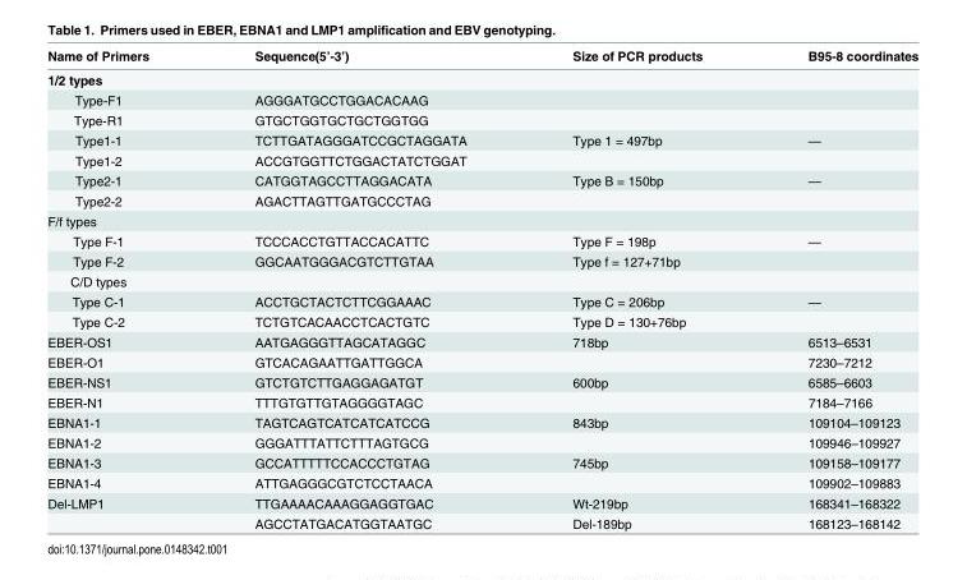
<table><thead><tr><td>Name of Primers</td><td>Sequence(5’-3’)</td><td>Size of PCR products</td><td>B95-8 coordinates</td></tr></thead><tbody><tr><td colspan="4">1/2 types</td></tr><tr><td>Type-F1</td><td>AGGGATGCCTGGACACAAG</td><td></td><td></td></tr><tr><td>Type-R1</td><td>GTGCTGGTGCTGCTGGTGG</td><td></td><td></td></tr><tr><td>Type1-1</td><td>TCTTGATAGGGATCCGCTAGGATA</td><td>Type 1 = 497bp</td><td>—</td></tr><tr><td>Type1-2</td><td>ACCGTGGTTCTGGACTATCTGGAT</td><td></td><td></td></tr><tr><td>Type2-1</td><td>CATGGTAGCCTTAGGACATA</td><td>Type B = 150bp</td><td>—</td></tr><tr><td>Type2-2</td><td>AGACTTAGTTGATGCCCTAG</td><td></td><td></td></tr><tr><td colspan="4">F/f types</td></tr><tr><td>Type F-1</td><td>TCCCACCTGTTACCACATTC</td><td>Type F = 198p</td><td>—</td></tr><tr><td>Type F-2</td><td>GGCAATGGGACGTCTTGTAA</td><td>Type f = 127+71bp</td><td></td></tr><tr><td colspan="4">C/D types</td></tr><tr><td>Type C-1</td><td>ACCTGCTACTCTTCGGAAAC</td><td>Type C = 206bp</td><td>—</td></tr><tr><td>Type C-2</td><td>TCTGTCACAACCTCACTGTC</td><td>Type D = 130+76bp</td><td></td></tr><tr><td>EBER-OS1</td><td>AATGAGGGTTAGCATAGGC</td><td>718bp</td><td>6513–6531</td></tr><tr><td>EBER-O1</td><td>GTCACAGAATTGATTGGCA</td><td></td><td>7230–7212</td></tr><tr><td>EBER-NS1</td><td>GTCTGTCTTGAGGAGATGT</td><td>600bp</td><td>6585–6603</td></tr><tr><td>EBER-N1</td><td>TTTGTGTTGTAGGGGTAGC</td><td></td><td>7184–7166</td></tr><tr><td>EBNA1-1</td><td>TAGTCAGTCATCATCATCCG</td><td>843bp</td><td>109104–109123</td></tr><tr><td>EBNA1-2</td><td>GGGATTTATTCTTTAGTGCG</td><td></td><td>109946–109927</td></tr><tr><td>EBNA1-3</td><td>GCCATTTTTCCACCCTGTAG</td><td>745bp</td><td>109158–109177</td></tr><tr><td>EBNA1-4</td><td>ATTGAGGGCGTCTCCTAACA</td><td></td><td>109902–109883</td></tr><tr><td rowspan="2">Del-LMP1</td><td>TTGAAAACAAAGGAGGTGAC</td><td>Wt-219bp</td><td>168341–168322</td></tr><tr><td>AGCCTATGACATGGTAATGC</td><td>Del-189bp</td><td>168123–168142</td></tr></tbody></table>